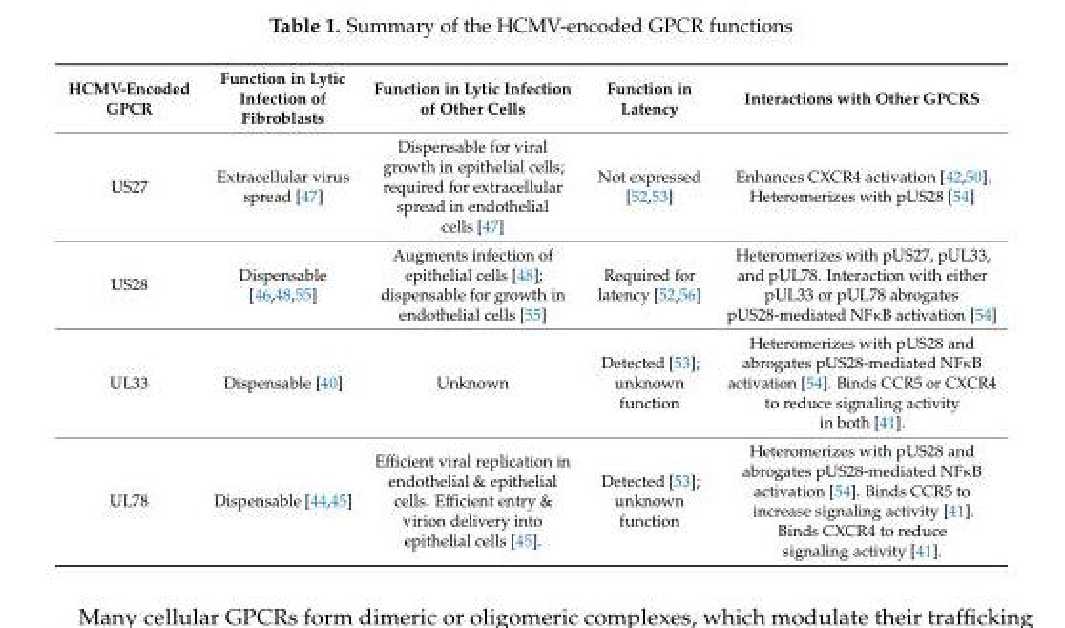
<table><thead><tr><td>HCMV-Encoded GPCR</td><td>Function in Lytic Infection of Fibroblasts</td><td>Function in Lytic Infection of Other Cells</td><td>Function in Latency</td><td>Interactions with Other GPCRS</td></tr></thead><tbody><tr><td>US27</td><td>Extracellular virus spread [47]</td><td>Dispensable for viral growth in epithelial cells; required for extracellular spread in endothelial cells [47]</td><td>Not expressed [52,53]</td><td>Enhances CXCR4 activation [42,50]. Heteromerizes with pUS28 [54]</td></tr><tr><td>US28</td><td>Dispensable [46,48,55]</td><td>Augments infection of epithelial cells [48]; dispensable for growth in endothelial cells [55]</td><td>Required for latency [52,56]</td><td>Heteromerizes with pUS27, pUL33, and pUL78. Interaction with either pUL33 or pUL78 abrogates pUS28-mediated NFκB activation [54]</td></tr><tr><td>UL33</td><td>Dispensable [40]</td><td>Unknown</td><td>Detected [53]; unknown function</td><td>Heteromerizes with pUS28 and abrogates pUS28-mediated NFκB activation [54]. Binds CCR5 or CXCR4 to reduce signaling activity in both [41].</td></tr><tr><td>UL78</td><td>Dispensable [44,45]</td><td>Efficient viral replication in endothelial &amp; epithelial cells. Efficient entry &amp; virion delivery into epithelial cells [45].</td><td>Detected [53]; unknown function</td><td>Heteromerizes with pUS28 and abrogates pUS28-mediated NFκB activation [54]. Binds CCR5 to increase signaling activity [41]. Binds CXCR4 to reduce signaling activity [41].</td></tr></tbody></table>